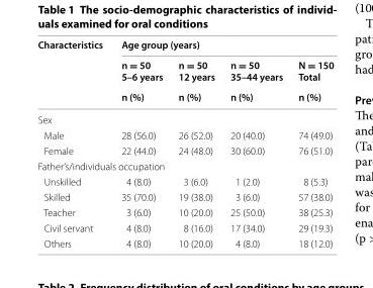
<table><thead><tr><td rowspan="3">Characteristics</td><td colspan="4">Age group (years)</td></tr><tr><td rowspan="2">n = 50 5–6 years n (%)</td><td rowspan="2">n = 50 12 years n (%)</td><td rowspan="2">n = 50 35–44 years n (%)</td><td rowspan="2">N = 150 Total n (%)</td></tr><tr></tr></thead><tbody><tr><td colspan="5">Sex</td></tr><tr><td>Male</td><td>28 (56.0)</td><td>26 (52.0)</td><td>20 (40.0)</td><td>74 (49.0)</td></tr><tr><td>Female</td><td>22 (44.0)</td><td>24 (48.0)</td><td>30 (60.0)</td><td>76 (51.0)</td></tr><tr><td colspan="5">Father’s/individuals occupation</td></tr><tr><td>Unskilled</td><td>4 (8.0)</td><td>3 (6.0)</td><td>1 (2.0)</td><td>8 (5.3)</td></tr><tr><td>Skilled</td><td>35 (70.0)</td><td>19 (38.0)</td><td>3 (6.0)</td><td>57 (38.0)</td></tr><tr><td>Teacher</td><td>3 (6.0)</td><td>10 (20.0)</td><td>25 (50.0)</td><td>38 (25.3)</td></tr><tr><td>Civil servant</td><td>4 (8.0)</td><td>8 (16.0)</td><td>17 (34.0)</td><td>29 (19.3)</td></tr><tr><td>Others</td><td>4 (8.0)</td><td>10 (20.0)</td><td>4 (8.0)</td><td>18 (12.0)</td></tr></tbody></table>